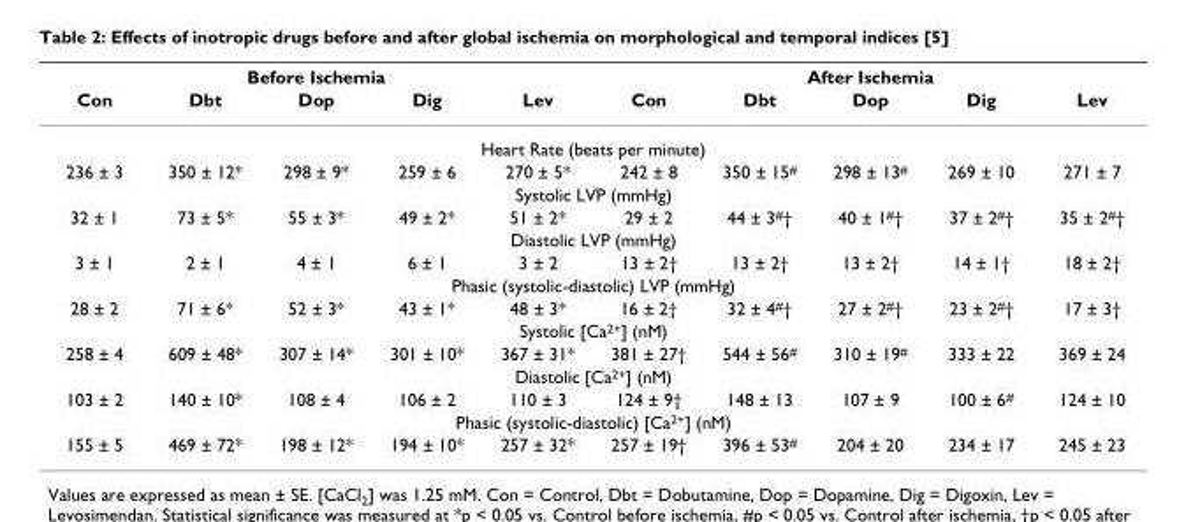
<table><thead><tr><td colspan="5">Before Ischemia</td><td colspan="5">After Ischemia</td></tr><tr><td>Con</td><td>Dbt</td><td>Dop</td><td>Dig</td><td>Lev</td><td>Con</td><td>Dbt</td><td>Dop</td><td>Dig</td><td>Lev</td></tr></thead><tbody><tr><td colspan="10">Heart Rate (beats per minute)</td></tr><tr><td>236 ± 3</td><td>350 ± 12*</td><td>298 ± 9*</td><td>259 ± 6</td><td>270 ± 5*</td><td>242 ± 8</td><td>350 ± 15<sup>#</sup></td><td>298 ± 13<sup>#</sup></td><td>269 ± 10</td><td>271 ± 7</td></tr><tr><td colspan="10">Systolic LVP (mmHg)</td></tr><tr><td>32 ± 1</td><td>73 ± 5*</td><td>55 ± 3*</td><td>49 ± 2*</td><td>51 ± 2*</td><td>29 ± 2</td><td>44 ± 3<sup>#</sup>†</td><td>40 ± 1<sup>#</sup>†</td><td>37 ± 2<sup>#</sup>†</td><td>35 ± 2<sup>#</sup>†</td></tr><tr><td colspan="10">Diastolic LVP (mmHg)</td></tr><tr><td>3 ± 1</td><td>2 ± 1</td><td>4 ± 1</td><td>6 ± 1</td><td>3 ± 2</td><td>13 ± 2†</td><td>13 ± 2†</td><td>13 ± 2†</td><td>14 ± 1†</td><td>18 ± 2†</td></tr><tr><td colspan="10">Phasic (systolic-diastolic) LVP (mmHg)</td></tr><tr><td>28 ± 2</td><td>71 ± 6*</td><td>52 ± 3*</td><td>43 ± 1*</td><td>48 ± 3*</td><td>16 ± 2†</td><td>32 ± 4<sup>#</sup>†</td><td>27 ± 2<sup>#</sup>†</td><td>23 ± 2<sup>#</sup>†</td><td>17 ± 3†</td></tr><tr><td colspan="10">Systolic [Ca<sup>2+</sup>] (nM)</td></tr><tr><td>258 ± 4</td><td>609 ± 48*</td><td>307 ± 14*</td><td>301 ± 10*</td><td>367 ± 31*</td><td>381 ± 27†</td><td>544 ± 56<sup>#</sup></td><td>310 ± 19<sup>#</sup></td><td>333 ± 22</td><td>369 ± 24</td></tr><tr><td colspan="10">Diastolic [Ca<sup>2+</sup>] (nM)</td></tr><tr><td>103 ± 2</td><td>140 ± 10*</td><td>108 ± 4</td><td>106 ± 2</td><td>110 ± 3</td><td>124 ± 9†</td><td>148 ± 13</td><td>107 ± 9</td><td>100 ± 6<sup>#</sup></td><td>124 ± 10</td></tr><tr><td colspan="10">Phasic (systolic-diastolic) [Ca<sup>2+</sup>] (nM)</td></tr><tr><td>155 ± 5</td><td>469 ± 72*</td><td>198 ± 12*</td><td>194 ± 10*</td><td>257 ± 32*</td><td>257 ± 19†</td><td>396 ± 53<sup>#</sup></td><td>204 ± 20</td><td>234 ± 17</td><td>245 ± 23</td></tr></tbody></table>